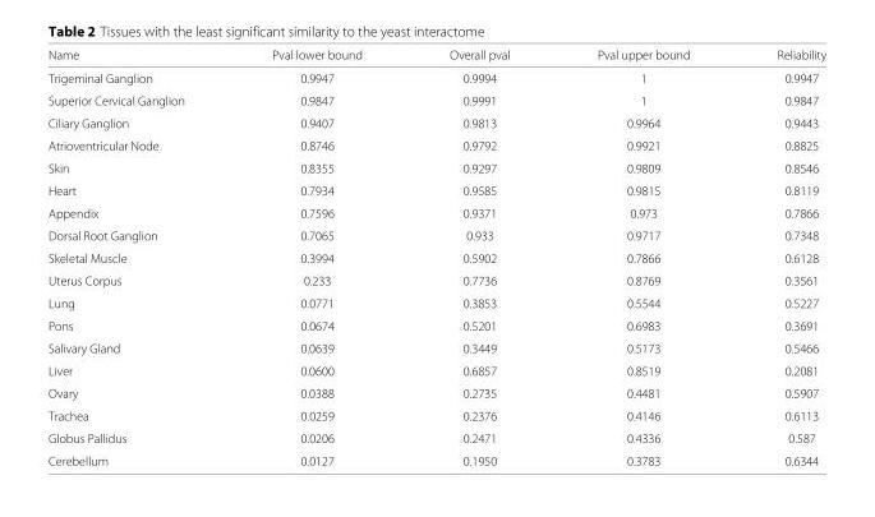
<table><thead><tr><td>Name</td><td>Pval lower bound</td><td>Overall pval</td><td>Pval upper bound</td><td>Reliability</td></tr></thead><tbody><tr><td>Trigeminal Ganglion</td><td>0.9947</td><td>0.9994</td><td>1</td><td>0.9947</td></tr><tr><td>Superior Cervical Ganglion</td><td>0.9847</td><td>0.9991</td><td>1</td><td>0.9847</td></tr><tr><td>Ciliary Ganglion</td><td>0.9407</td><td>0.9813</td><td>0.9964</td><td>0.9443</td></tr><tr><td>Atrioventricular Node</td><td>0.8746</td><td>0.9792</td><td>0.9921</td><td>0.8825</td></tr><tr><td>Skin</td><td>0.8355</td><td>0.9297</td><td>0.9809</td><td>0.8546</td></tr><tr><td>Heart</td><td>0.7934</td><td>0.9585</td><td>0.9815</td><td>0.8119</td></tr><tr><td>Appendix</td><td>0.7596</td><td>0.9371</td><td>0.973</td><td>0.7866</td></tr><tr><td>Dorsal Root Ganglion</td><td>0.7065</td><td>0.933</td><td>0.9717</td><td>0.7348</td></tr><tr><td>Skeletal Muscle</td><td>0.3994</td><td>0.5902</td><td>0.7866</td><td>0.6128</td></tr><tr><td>Uterus Corpus</td><td>0.233</td><td>0.7736</td><td>0.8769</td><td>0.3561</td></tr><tr><td>Lung</td><td>0.0771</td><td>0.3853</td><td>0.5544</td><td>0.5227</td></tr><tr><td>Pons</td><td>0.0674</td><td>0.5201</td><td>0.6983</td><td>0.3691</td></tr><tr><td>Salivary Gland</td><td>0.0639</td><td>0.3449</td><td>0.5173</td><td>0.5466</td></tr><tr><td>Liver</td><td>0.0600</td><td>0.6857</td><td>0.8519</td><td>0.2081</td></tr><tr><td>Ovary</td><td>0.0388</td><td>0.2735</td><td>0.4481</td><td>0.5907</td></tr><tr><td>Trachea</td><td>0.0259</td><td>0.2376</td><td>0.4146</td><td>0.6113</td></tr><tr><td>Globus Pallidus</td><td>0.0206</td><td>0.2471</td><td>0.4336</td><td>0.587</td></tr><tr><td>Cerebellum</td><td>0.0127</td><td>0.1950</td><td>0.3783</td><td>0.6344</td></tr></tbody></table>